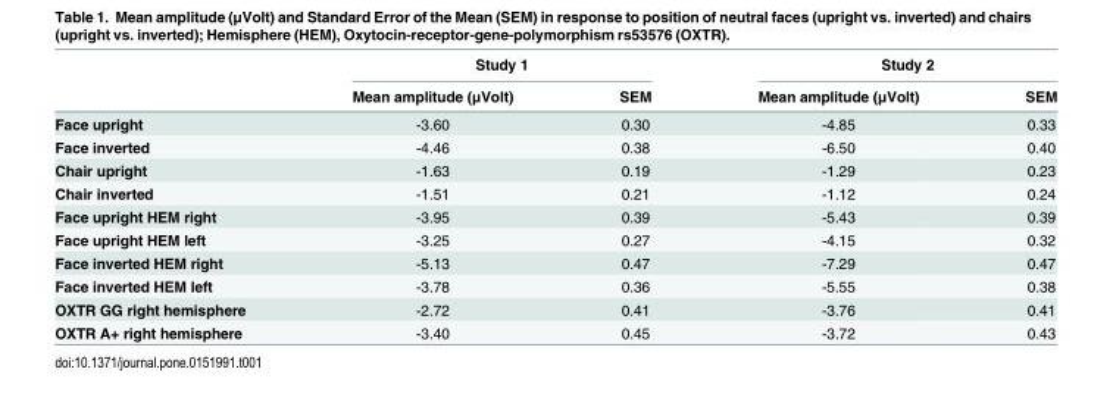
<table><thead><tr><td rowspan="2"></td><td colspan="2">Study 1</td><td colspan="2">Study 2</td></tr><tr><td>Mean amplitude (μVolt)</td><td>SEM</td><td>Mean amplitude (μVolt)</td><td>SEM</td></tr></thead><tbody><tr><td>Face upright</td><td>-3.60</td><td>0.30</td><td>-4.85</td><td>0.33</td></tr><tr><td>Face inverted</td><td>-4.46</td><td>0.38</td><td>-6.50</td><td>0.40</td></tr><tr><td>Chair upright</td><td>-1.63</td><td>0.19</td><td>-1.29</td><td>0.23</td></tr><tr><td>Chair inverted</td><td>-1.51</td><td>0.21</td><td>-1.12</td><td>0.24</td></tr><tr><td>Face upright HEM right</td><td>-3.95</td><td>0.39</td><td>-5.43</td><td>0.39</td></tr><tr><td>Face upright HEM left</td><td>-3.25</td><td>0.27</td><td>-4.15</td><td>0.32</td></tr><tr><td>Face inverted HEM right</td><td>-5.13</td><td>0.47</td><td>-7.29</td><td>0.47</td></tr><tr><td>Face inverted HEM left</td><td>-3.78</td><td>0.36</td><td>-5.55</td><td>0.38</td></tr><tr><td>OXTR GG right hemisphere</td><td>-2.72</td><td>0.41</td><td>-3.76</td><td>0.41</td></tr><tr><td>OXTR A+ right hemisphere</td><td>-3.40</td><td>0.45</td><td>-3.72</td><td>0.43</td></tr></tbody></table>